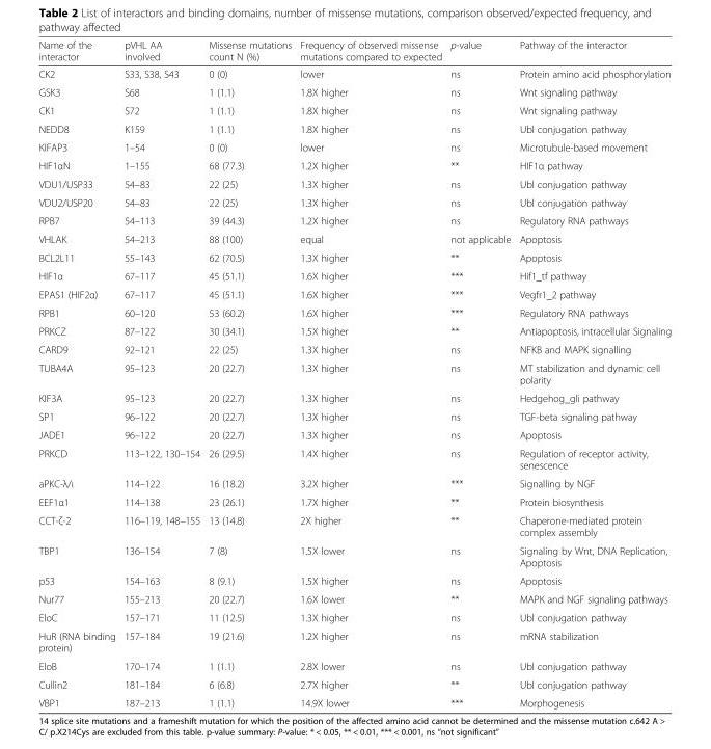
<table><thead><tr><td>Name of the interactor</td><td>pVHL AA involved</td><td>Missense mutations count N (%)</td><td>Frequency of observed missense mutations compared to expected</td><td>p-value</td><td>Pathway of the interactor</td></tr></thead><tbody><tr><td>CK2</td><td>S33, S38, S43</td><td>0 (0)</td><td>lower</td><td>ns</td><td>Protein amino acid phosphorylation</td></tr><tr><td>GSK3</td><td>S68</td><td>1 (1.1)</td><td>1.8X higher</td><td>ns</td><td>Wnt signaling pathway</td></tr><tr><td>CK1</td><td>S72</td><td>1 (1.1)</td><td>1.8X higher</td><td>ns</td><td>Wnt signaling pathway</td></tr><tr><td>NEDD8</td><td>K159</td><td>1 (1.1)</td><td>1.8X higher</td><td>ns</td><td>Ubl conjugation pathway</td></tr><tr><td>KIFAP3</td><td>1–54</td><td>0 (0)</td><td>lower</td><td>ns</td><td>Microtubule-based movement</td></tr><tr><td>HIF1αN</td><td>1–155</td><td>68 (77.3)</td><td>1.2X higher</td><td>**</td><td>HIF1α pathway</td></tr><tr><td>VDU1/USP33</td><td>54–83</td><td>22 (25)</td><td>1.3X higher</td><td>ns</td><td>Ubl conjugation pathway</td></tr><tr><td>VDU2/USP20</td><td>54–83</td><td>22 (25)</td><td>1.3X higher</td><td>ns</td><td>Ubl conjugation pathway</td></tr><tr><td>RPB7</td><td>54–113</td><td>39 (44.3)</td><td>1.2X higher</td><td>ns</td><td>Regulatory RNA pathways</td></tr><tr><td>VHLAK</td><td>54–213</td><td>88 (100)</td><td>equal</td><td>not applicable</td><td>Apoptosis</td></tr><tr><td>BCL2L11</td><td>55–143</td><td>62 (70.5)</td><td>1.3X higher</td><td>**</td><td>Apoptosis</td></tr><tr><td>HIF1α</td><td>67–117</td><td>45 (51.1)</td><td>1.6X higher</td><td>***</td><td>Hif1_tf pathway</td></tr><tr><td>EPAS1 (HIF2α)</td><td>67–117</td><td>45 (51.1)</td><td>1.6X higher</td><td>***</td><td>Vegfr1_2 pathway</td></tr><tr><td>RPB1</td><td>60–120</td><td>53 (60.2)</td><td>1.6X higher</td><td>***</td><td>Regulatory RNA pathways</td></tr><tr><td>PRKCZ</td><td>87–122</td><td>30 (34.1)</td><td>1.5X higher</td><td>**</td><td>Antiapoptosis, intracellular Signaling</td></tr><tr><td>CARD9</td><td>92–121</td><td>22 (25)</td><td>1.3X higher</td><td>ns</td><td>NFKB and MAPK signalling</td></tr><tr><td>TUBA4A</td><td>95–123</td><td>20 (22.7)</td><td>1.3X higher</td><td>ns</td><td>MT stabilization and dynamic cell polarity</td></tr><tr><td>KIF3A</td><td>95–123</td><td>20 (22.7)</td><td>1.3X higher</td><td>ns</td><td>Hedgehog_gli pathway</td></tr><tr><td>SP1</td><td>96–122</td><td>20 (22.7)</td><td>1.3X higher</td><td>ns</td><td>TGF-beta signaling pathway</td></tr><tr><td>JADE1</td><td>96–122</td><td>20 (22.7)</td><td>1.3X higher</td><td>ns</td><td>Apoptosis</td></tr><tr><td>PRKCD</td><td>113–122, 130–154</td><td>26 (29.5)</td><td>1.4X higher</td><td>ns</td><td>Regulation of receptor activity, senescence</td></tr><tr><td>aPKC-λ/ι</td><td>114–122</td><td>16 (18.2)</td><td>3.2X higher</td><td>***</td><td>Signalling by NGF</td></tr><tr><td>EEF1α1</td><td>114–138</td><td>23 (26.1)</td><td>1.7X higher</td><td>**</td><td>Protein biosynthesis</td></tr><tr><td>CCT-ζ-2</td><td>116–119, 148–155</td><td>13 (14.8)</td><td>2X higher</td><td>**</td><td>Chaperone-mediated protein complex assembly</td></tr><tr><td>TBP1</td><td>136–154</td><td>7 (8)</td><td>1.5X lower</td><td>ns</td><td>Signaling by Wnt, DNA Replication, Apoptosis</td></tr><tr><td>p53</td><td>154–163</td><td>8 (9.1)</td><td>1.5X higher</td><td>ns</td><td>Apoptosis</td></tr><tr><td>Nur77</td><td>155–213</td><td>20 (22.7)</td><td>1.6X lower</td><td>**</td><td>MAPK and NGF signaling pathways</td></tr><tr><td>EloC</td><td>157–171</td><td>11 (12.5)</td><td>1.3X higher</td><td>ns</td><td>Ubl conjugation pathway</td></tr><tr><td>HuR (RNA binding protein)</td><td>157–184</td><td>19 (21.6)</td><td>1.2X higher</td><td>ns</td><td>mRNA stabilization</td></tr><tr><td>EloB</td><td>170–174</td><td>1 (1.1)</td><td>2.8X lower</td><td>ns</td><td>Ubl conjugation pathway</td></tr><tr><td>Cullin2</td><td>181–184</td><td>6 (6.8)</td><td>2.7X higher</td><td>**</td><td>Ubl conjugation pathway</td></tr><tr><td>VBP1</td><td>187–213</td><td>1 (1.1)</td><td>14.9X lower</td><td>***</td><td>Morphogenesis</td></tr></tbody></table>